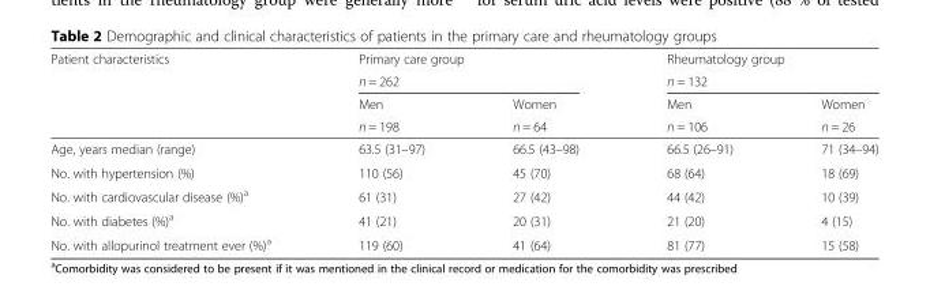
<table><thead><tr><td rowspan="4">Patient characteristics</td><td rowspan="2" colspan="2">Primary care group n = 262</td><td rowspan="2" colspan="2">Rheumatology group n = 132</td></tr><tr></tr><tr><td rowspan="2">Men n = 198</td><td rowspan="2">Women n = 64</td><td rowspan="2">Men n = 106</td><td rowspan="2">Women n = 26</td></tr><tr></tr></thead><tbody><tr><td>Age, years median (range)</td><td>63.5 (31–97)</td><td>66.5 (43–98)</td><td>66.5 (26–91)</td><td>71 (34–94)</td></tr><tr><td>No. with hypertension (%)</td><td>110 (56)</td><td>45 (70)</td><td>68 (64)</td><td>18 (69)</td></tr><tr><td>No. with cardiovascular disease (%)<sup>a</sup></td><td>61 (31)</td><td>27 (42)</td><td>44 (42)</td><td>10 (39)</td></tr><tr><td>No. with diabetes (%)<sup>a</sup></td><td>41 (21)</td><td>20 (31)</td><td>21 (20)</td><td>4 (15)</td></tr><tr><td>No. with allopurinol treatment ever (%)<sup>a</sup></td><td>119 (60)</td><td>41 (64)</td><td>81 (77)</td><td>15 (58)</td></tr></tbody></table>